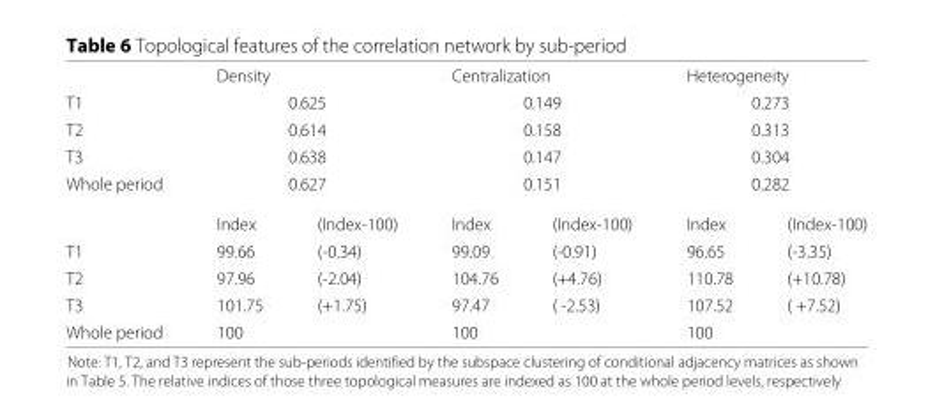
<table><thead><tr><td></td><td colspan="2">Density</td><td colspan="2">Centralization</td><td colspan="2">Heterogeneity</td></tr></thead><tbody><tr><td>T1</td><td colspan="2">0.625</td><td colspan="2">0.149</td><td colspan="2">0.273</td></tr><tr><td>T2</td><td colspan="2">0.614</td><td colspan="2">0.158</td><td colspan="2">0.313</td></tr><tr><td>T3</td><td colspan="2">0.638</td><td colspan="2">0.147</td><td colspan="2">0.304</td></tr><tr><td rowspan="2">Whole period</td><td colspan="2">0.627</td><td colspan="2">0.151</td><td colspan="2">0.282</td></tr><tr><td>Index</td><td>(Index-100)</td><td>Index</td><td>(Index-100)</td><td>Index</td><td>(Index-100)</td></tr><tr><td>T1</td><td>99.66</td><td>(-0.34)</td><td>99.09</td><td>(-0.91)</td><td>96.65</td><td>(-3.35)</td></tr><tr><td>T2</td><td>97.96</td><td>(-2.04)</td><td>104.76</td><td>(+4.76)</td><td>110.78</td><td>(+10.78)</td></tr><tr><td>T3</td><td>101.75</td><td>(+1.75)</td><td>97.47</td><td>( -2.53)</td><td>107.52</td><td>( +7.52)</td></tr><tr><td>Whole period</td><td>100</td><td></td><td>100</td><td></td><td>100</td><td></td></tr></tbody></table>